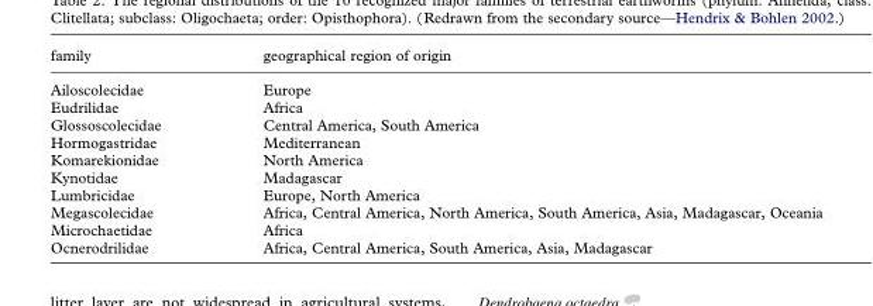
<table><thead><tr><td>family</td><td>geographical region of origin</td></tr></thead><tbody><tr><td>Ailoscolecidae</td><td>Europe</td></tr><tr><td>Eudrilidae</td><td>Africa</td></tr><tr><td>Glossoscolecidae</td><td>Central America, South America</td></tr><tr><td>Hormogastridae</td><td>Mediterranean</td></tr><tr><td>Komarekionidae</td><td>North America</td></tr><tr><td>Kynotidae</td><td>Madagascar</td></tr><tr><td>Lumbricidae</td><td>Europe, North America</td></tr><tr><td>Megascolecidae</td><td>Africa, Central America, North America, South America, Asia, Madagascar, Oceania</td></tr><tr><td>Microchaetidae</td><td>Africa</td></tr><tr><td>Ocnerodrilidae</td><td>Africa, Central America, South America, Asia, Madagascar</td></tr></tbody></table>